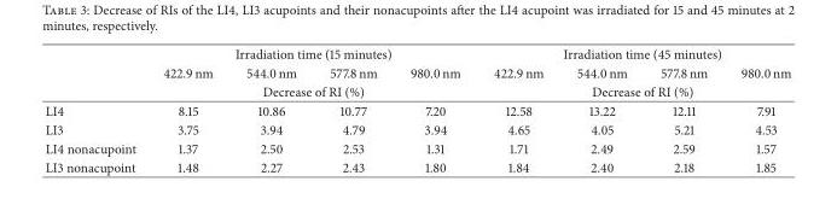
<table><thead><tr><td rowspan="3"></td><td colspan="4">Irradiation time (15 minutes)</td><td colspan="4">Irradiation time (45 minutes)</td></tr><tr><td>422.9 nm</td><td>544.0 nm</td><td>577.8 nm</td><td>980.0 nm</td><td>422.9 nm</td><td>544.0 nm</td><td>577.8 nm</td><td>980.0 nm</td></tr><tr><td colspan="4">Decrease of RI (%)</td><td colspan="4">Decrease of RI (%)</td></tr></thead><tbody><tr><td>LI4</td><td>8.15</td><td>10.86</td><td>10.77</td><td>7.20</td><td>12.58</td><td>13.22</td><td>12.11</td><td>7.91</td></tr><tr><td>LI3</td><td>3.75</td><td>3.94</td><td>4.79</td><td>3.94</td><td>4.65</td><td>4.05</td><td>5.21</td><td>4.53</td></tr><tr><td>LI4 nonacupoint</td><td>1.37</td><td>2.50</td><td>2.53</td><td>1.31</td><td>1.71</td><td>2.49</td><td>2.59</td><td>1.57</td></tr><tr><td>LI3 nonacupoint</td><td>1.48</td><td>2.27</td><td>2.43</td><td>1.80</td><td>1.84</td><td>2.40</td><td>2.18</td><td>1.85</td></tr></tbody></table>